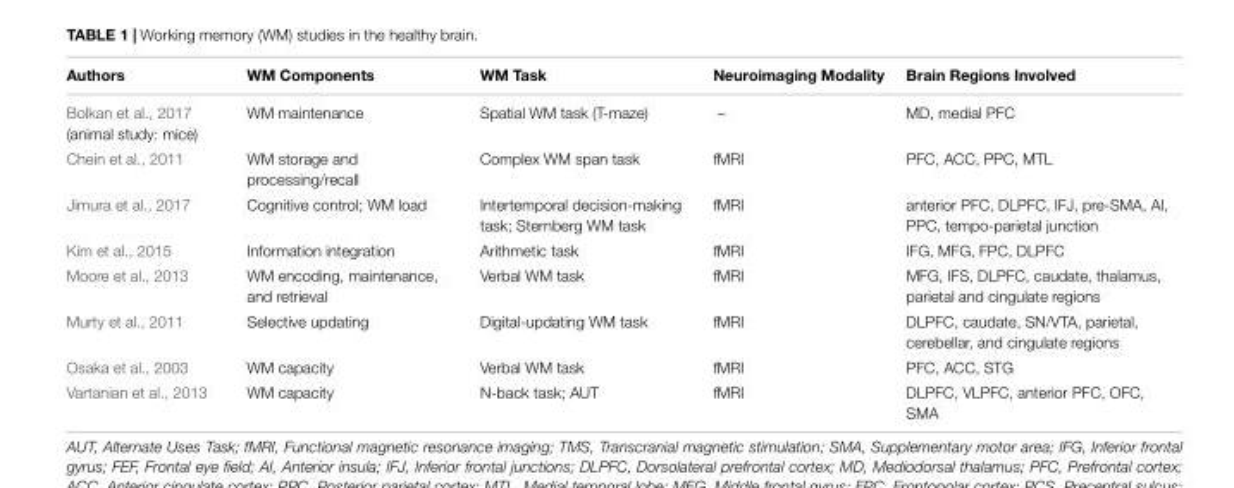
<table><thead><tr><td>Authors</td><td>WM Components</td><td>WM Task</td><td>Neuroimaging Modality</td><td>Brain Regions Involved</td></tr></thead><tbody><tr><td>Bolkan et al., 2017 (animal study: mice)</td><td>WM maintenance</td><td>Spatial WM task (T-maze)</td><td>–</td><td>MD, medial PFC</td></tr><tr><td>Chein et al., 2011</td><td>WM storage and processing/recall</td><td>Complex WM span task</td><td>fMRI</td><td>PFC, ACC, PPC, MTL</td></tr><tr><td>Jimura et al., 2017</td><td>Cognitive control; WM load</td><td>Intertemporal decision-making task; Sternberg WM task</td><td>fMRI</td><td>anterior PFC, DLPFC, IFJ, pre-SMA, AI, PPC, tempo-parietal junction</td></tr><tr><td>Kim et al., 2015</td><td>Information integration</td><td>Arithmetic task</td><td>fMRI</td><td>IFG, MFG, FPC, DLPFC</td></tr><tr><td>Moore et al., 2013</td><td>WM encoding, maintenance, and retrieval</td><td>Verbal WM task</td><td>fMRI</td><td>MFG, IFS, DLPFC, caudate, thalamus, parietal and cingulate regions</td></tr><tr><td>Murty et al., 2011</td><td>Selective updating</td><td>Digital-updating WM task</td><td>fMRI</td><td>DLPFC, caudate, SN/VTA, parietal, cerebellar, and cingulate regions</td></tr><tr><td>Osaka et al., 2003</td><td>WM capacity</td><td>Verbal WM task</td><td>fMRI</td><td>PFC, ACC, STG</td></tr><tr><td>Vartanian et al., 2013</td><td>WM capacity</td><td>N-back task; AUT</td><td>fMRI</td><td>DLPFC, VLPFC, anterior PFC, OFC, SMA</td></tr></tbody></table>